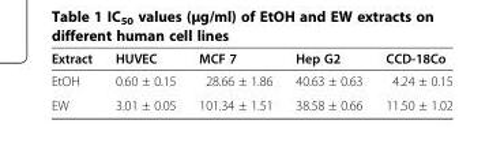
<table><thead><tr><td>Extract</td><td>HUVEC</td><td>MCF 7</td><td>Hep G2</td><td>CCD-18Co</td></tr></thead><tbody><tr><td>EtOH</td><td>0.60 ± 0.15</td><td>28.66 ± 1.86</td><td>40.63 ± 0.63</td><td>4.24 ± 0.15</td></tr><tr><td>EW</td><td>3.01 ± 0.05</td><td>101.34 ± 1.51</td><td>38.58 ± 0.66</td><td>11.50 ± 1.02</td></tr></tbody></table>